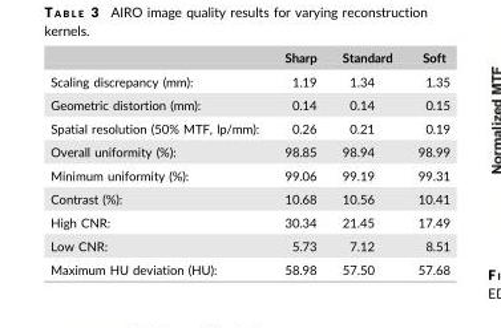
<table><thead><tr><td></td><td>Sharp</td><td>Standard</td><td>Soft</td></tr></thead><tbody><tr><td>Scaling discrepancy (mm):</td><td>1.19</td><td>1.34</td><td>1.35</td></tr><tr><td>Geometric distortion (mm):</td><td>0.14</td><td>0.14</td><td>0.15</td></tr><tr><td>Spatial resolution (50% MTF, lp/mm):</td><td>0.26</td><td>0.21</td><td>0.19</td></tr><tr><td>Overall uniformity (%):</td><td>98.85</td><td>98.94</td><td>98.99</td></tr><tr><td>Minimum uniformity (%):</td><td>99.06</td><td>99.19</td><td>99.31</td></tr><tr><td>Contrast (%):</td><td>10.68</td><td>10.56</td><td>10.41</td></tr><tr><td>High CNR:</td><td>30.34</td><td>21.45</td><td>17.49</td></tr><tr><td>Low CNR:</td><td>5.73</td><td>7.12</td><td>8.51</td></tr><tr><td>Maximum HU deviation (HU):</td><td>58.98</td><td>57.50</td><td>57.68</td></tr></tbody></table>